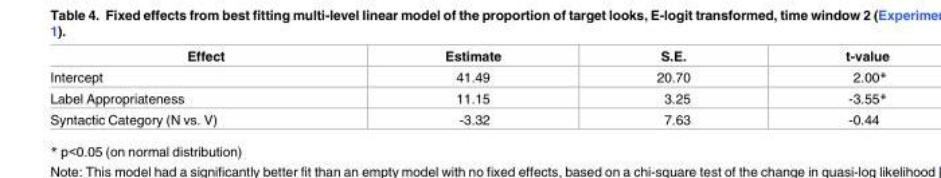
<table><thead><tr><td>Effect</td><td>Estimate</td><td>S.E.</td><td>t-value</td></tr></thead><tbody><tr><td>Intercept</td><td>41.49</td><td>20.70</td><td>2.00*</td></tr><tr><td>Label Appropriateness</td><td>11.15</td><td>3.25</td><td>-3.55*</td></tr><tr><td>Syntactic Category (N vs. V)</td><td>-3.32</td><td>7.63</td><td>-0.44</td></tr></tbody></table>